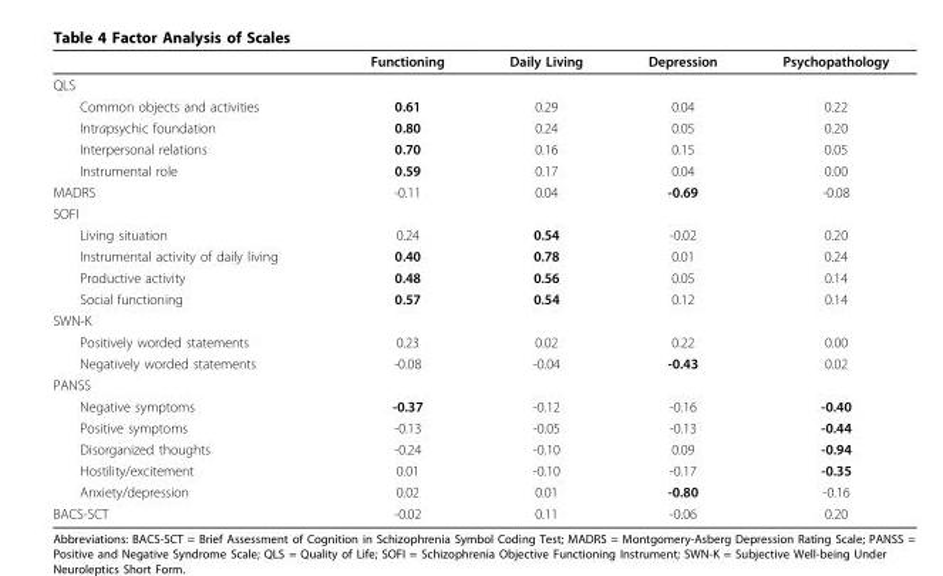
<table><thead><tr><td></td><td>Functioning</td><td>Daily Living</td><td>Depression</td><td>Psychopathology</td></tr></thead><tbody><tr><td colspan="5">QLS</td></tr><tr><td>Common objects and activities</td><td>0.61</td><td>0.29</td><td>0.04</td><td>0.22</td></tr><tr><td>Intrapsychic foundation</td><td>0.80</td><td>0.24</td><td>0.05</td><td>0.20</td></tr><tr><td>Interpersonal relations</td><td>0.70</td><td>0.16</td><td>0.15</td><td>0.05</td></tr><tr><td>Instrumental role</td><td>0.59</td><td>0.17</td><td>0.04</td><td>0.00</td></tr><tr><td>MADRS</td><td>-0.11</td><td>0.04</td><td>-0.69</td><td>-0.08</td></tr><tr><td colspan="5">SOFI</td></tr><tr><td>Living situation</td><td>0.24</td><td>0.54</td><td>-0.02</td><td>0.20</td></tr><tr><td>Instrumental activity of daily living</td><td>0.40</td><td>0.78</td><td>0.01</td><td>0.24</td></tr><tr><td>Productive activity</td><td>0.48</td><td>0.56</td><td>0.05</td><td>0.14</td></tr><tr><td>Social functioning</td><td>0.57</td><td>0.54</td><td>0.12</td><td>0.14</td></tr><tr><td colspan="5">SWN-K</td></tr><tr><td>Positively worded statements</td><td>0.23</td><td>0.02</td><td>0.22</td><td>0.00</td></tr><tr><td>Negatively worded statements</td><td>-0.08</td><td>-0.04</td><td>-0.43</td><td>0.02</td></tr><tr><td colspan="5">PANSS</td></tr><tr><td>Negative symptoms</td><td>-0.37</td><td>-0.12</td><td>-0.16</td><td>-0.40</td></tr><tr><td>Positive symptoms</td><td>-0.13</td><td>-0.05</td><td>-0.13</td><td>-0.44</td></tr><tr><td>Disorganized thoughts</td><td>-0.24</td><td>-0.10</td><td>0.09</td><td>-0.94</td></tr><tr><td>Hostility/excitement</td><td>0.01</td><td>-0.10</td><td>-0.17</td><td>-0.35</td></tr><tr><td>Anxiety/depression</td><td>0.02</td><td>0.01</td><td>-0.80</td><td>-0.16</td></tr><tr><td>BACS-SCT</td><td>-0.02</td><td>0.11</td><td>-0.06</td><td>0.20</td></tr></tbody></table>